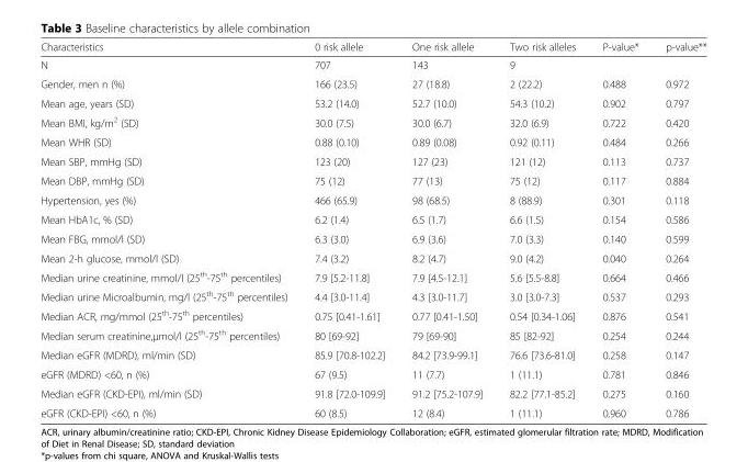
<table><thead><tr><td>Characteristics</td><td>0 risk allele</td><td>One risk allele</td><td>Two risk alleles</td><td>P-value*</td><td>p-value**</td></tr></thead><tbody><tr><td>N</td><td>707</td><td>143</td><td>9</td><td></td><td></td></tr><tr><td>Gender, men n (%)</td><td>166 (23.5)</td><td>27 (18.8)</td><td>2 (22.2)</td><td>0.488</td><td>0.972</td></tr><tr><td>Mean age, years (SD)</td><td>53.2 (14.0)</td><td>52.7 (10.0)</td><td>54.3 (10.2)</td><td>0.902</td><td>0.797</td></tr><tr><td>Mean BMI, kg/m<sup>2</sup> (SD)</td><td>30.0 (7.5)</td><td>30.0 (6.7)</td><td>32.0 (6.9)</td><td>0.722</td><td>0.420</td></tr><tr><td>Mean WHR (SD)</td><td>0.88 (0.10)</td><td>0.89 (0.08)</td><td>0.92 (0.11)</td><td>0.484</td><td>0.266</td></tr><tr><td>Mean SBP, mmHg (SD)</td><td>123 (20)</td><td>127 (23)</td><td>121 (12)</td><td>0.113</td><td>0.737</td></tr><tr><td>Mean DBP, mmHg (SD)</td><td>75 (12)</td><td>77 (13)</td><td>75 (12)</td><td>0.117</td><td>0.884</td></tr><tr><td>Hypertension, yes (%)</td><td>466 (65.9)</td><td>98 (68.5)</td><td>8 (88.9)</td><td>0.301</td><td>0.118</td></tr><tr><td>Mean HbA1c, % (SD)</td><td>6.2 (1.4)</td><td>6.5 (1.7)</td><td>6.6 (1.5)</td><td>0.154</td><td>0.586</td></tr><tr><td>Mean FBG, mmol/l (SD)</td><td>6.3 (3.0)</td><td>6.9 (3.6)</td><td>7.0 (3.3)</td><td>0.140</td><td>0.599</td></tr><tr><td>Mean 2-h glucose, mmol/l (SD)</td><td>7.4 (3.2)</td><td>8.2 (4.7)</td><td>9.0 (4.2)</td><td>0.040</td><td>0.264</td></tr><tr><td>Median urine creatinine, mmol/l (25<sup>th</sup>-75<sup>th</sup> percentiles)</td><td>7.9 [5.2-11.8]</td><td>7.9 [4.5-12.1]</td><td>5.6 [5.5-8.8]</td><td>0.664</td><td>0.466</td></tr><tr><td>Median urine Microalbumin, mg/l (25<sup>th</sup>-75<sup>th</sup> percentiles)</td><td>4.4 [3.0-11.4]</td><td>4.3 [3.0-11.7]</td><td>3.0 [3.0-7.3]</td><td>0.537</td><td>0.293</td></tr><tr><td>Median ACR, mg/mmol (25<sup>th</sup>-75<sup>th</sup> percentiles)</td><td>0.75 [0.41-1.61]</td><td>0.77 [0.41-1.50]</td><td>0.54 [0.34-1.06]</td><td>0.876</td><td>0.541</td></tr><tr><td>Median serum creatinine,μmol/l (25<sup>th</sup>-75<sup>th</sup> percentiles)</td><td>80 [69-92]</td><td>79 [69-90]</td><td>85 [82-92]</td><td>0.254</td><td>0.244</td></tr><tr><td>Median eGFR (MDRD), ml/min (SD)</td><td>85.9 [70.8-102.2]</td><td>84.2 [73.9-99.1]</td><td>76.6 [73.6-81.0]</td><td>0.258</td><td>0.147</td></tr><tr><td>eGFR (MDRD) &lt;60, n (%)</td><td>67 (9.5)</td><td>11 (7.7)</td><td>1 (11.1)</td><td>0.781</td><td>0.846</td></tr><tr><td>Median eGFR (CKD-EPI), ml/min (SD)</td><td>91.8 [72.0-109.9]</td><td>91.2 [75.2-107.9]</td><td>82.2 [77.1-85.2]</td><td>0.275</td><td>0.160</td></tr><tr><td>eGFR (CKD-EPI) &lt;60, n (%)</td><td>60 (8.5)</td><td>12 (8.4)</td><td>1 (11.1)</td><td>0.960</td><td>0.786</td></tr></tbody></table>